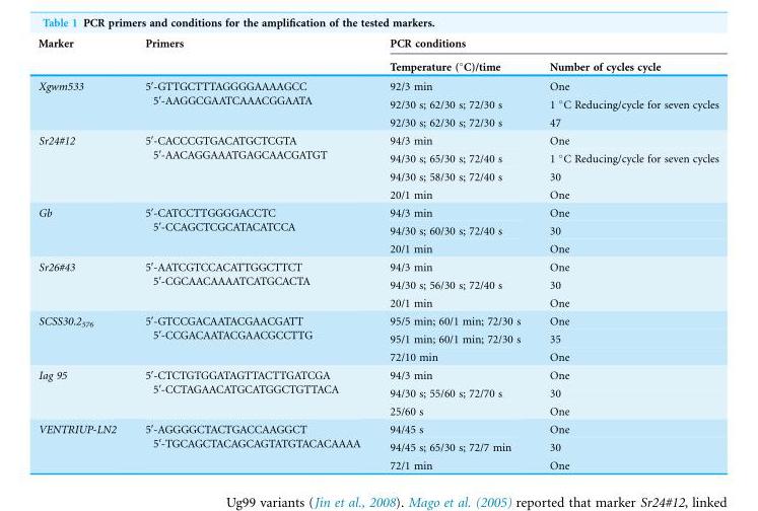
<table><thead><tr><td rowspan="2">Marker</td><td rowspan="2">Primers</td><td colspan="2">PCR conditions</td></tr><tr><td>Temperature (°C)/time</td><td>Number of cycles cycle</td></tr></thead><tbody><tr><td rowspan="3">Xgwm533</td><td rowspan="3">5′-GTTGCTTTAGGGGAAAAGCC 5′-AAGGCGAATCAAACGGAATA</td><td>92/3 min</td><td>One</td></tr><tr><td>92/30 s; 62/30 s; 72/30 s</td><td>1 °C Reducing/cycle for seven cycles</td></tr><tr><td>92/30 s; 62/30 s; 72/30 s</td><td>47</td></tr><tr><td rowspan="4">Sr24#12</td><td rowspan="4">5′-CACCCGTGACATGCTCGTA 5′-AACAGGAAATGAGCAACGATGT</td><td>94/3 min</td><td>One</td></tr><tr><td>94/30 s; 65/30 s; 72/40 s</td><td>1 °C Reducing/cycle for seven cycles</td></tr><tr><td>94/30 s; 58/30 s; 72/40 s</td><td>30</td></tr><tr><td>20/1 min</td><td>One</td></tr><tr><td rowspan="3">Gb</td><td rowspan="3">5′-CATCCTTGGGGACCTC 5′-CCAGCTCGCATACATCCA</td><td>94/3 min</td><td>One</td></tr><tr><td>94/30 s; 60/30 s; 72/40 s</td><td>30</td></tr><tr><td>20/1 min</td><td>One</td></tr><tr><td rowspan="3">Sr26#43</td><td rowspan="3">5′-AATCGTCCACATTGGCTTCT 5′-CGCAACAAAATCATGCACTA</td><td>94/3 min</td><td>One</td></tr><tr><td>94/30 s; 56/30 s; 72/40 s</td><td>30</td></tr><tr><td>20/1 min</td><td>One</td></tr><tr><td rowspan="3">SCSS30.2<sub>576</sub></td><td rowspan="3">5′-GTCCGACAATACGAACGATT 5′-CCGACAATACGAACGCCTTG</td><td>95/5 min; 60/1 min; 72/30 s</td><td>One</td></tr><tr><td>95/1 min; 60/1 min; 72/30 s</td><td>35</td></tr><tr><td>72/10 min</td><td>One</td></tr><tr><td rowspan="3">Iag 95</td><td rowspan="3">5′-CTCTGTGGATAGTTACTTGATCGA 5′-CCTAGAACATGCATGGCTGTTACA</td><td>94/3 min</td><td>One</td></tr><tr><td>94/30 s; 55/60 s; 72/70 s</td><td>30</td></tr><tr><td>25/60 s</td><td>One</td></tr><tr><td rowspan="3">VENTRIUP-LN2</td><td rowspan="3">5′-AGGGGCTACTGACCAAGGCT 5′-TGCAGCTACAGCAGTATGTACACAAAA</td><td>94/45 s</td><td>One</td></tr><tr><td>94/45 s; 65/30 s; 72/7 min</td><td>30</td></tr><tr><td>72/1 min</td><td>One</td></tr></tbody></table>